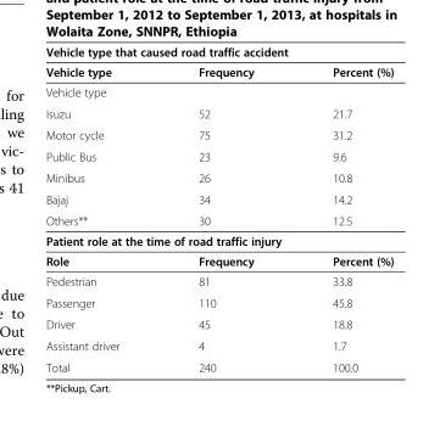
<table><thead><tr><td colspan="3">Vehicle type that caused road traffic accident</td></tr><tr><td>Vehicle type</td><td>Frequency</td><td>Percent (%)</td></tr></thead><tbody><tr><td colspan="3">Vehicle type</td></tr><tr><td>Isuzu</td><td>52</td><td>21.7</td></tr><tr><td>Motor cycle</td><td>75</td><td>31.2</td></tr><tr><td>Public Bus</td><td>23</td><td>9.6</td></tr><tr><td>Minibus</td><td>26</td><td>10.8</td></tr><tr><td>Bajaj</td><td>34</td><td>14.2</td></tr><tr><td>Others**</td><td>30</td><td>12.5</td></tr><tr><td colspan="3">Patient role at the time of road traffic injury</td></tr><tr><td>Role</td><td>Frequency</td><td>Percent (%)</td></tr><tr><td>Pedestrian</td><td>81</td><td>33.8</td></tr><tr><td>Passenger</td><td>110</td><td>45.8</td></tr><tr><td>Driver</td><td>45</td><td>18.8</td></tr><tr><td>Assistant driver</td><td>4</td><td>1.7</td></tr><tr><td>Total</td><td>240</td><td>100.0</td></tr></tbody></table>